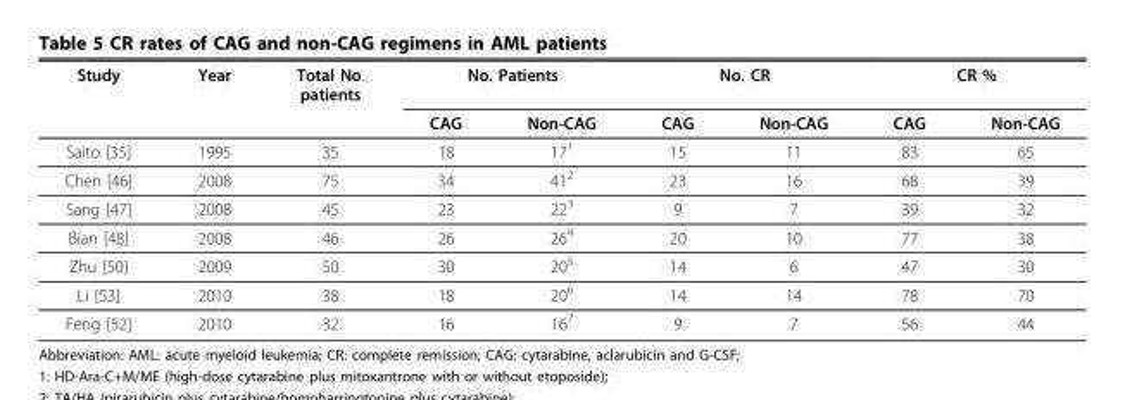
<table><tbody><tr><td rowspan="2">Study</td><td>Year</td><td>Total No. patients</td><td colspan="2">No. Patients</td><td colspan="2">No. CR</td><td colspan="2">CR %</td></tr><tr><td></td><td></td><td>CAG</td><td>Non-CAG</td><td>CAG</td><td>Non-CAG</td><td>CAG</td><td>Non-CAG</td></tr><tr><td>Saito [35]</td><td>1995</td><td>35</td><td>18</td><td>17<sup>1</sup></td><td>15</td><td>11</td><td>83</td><td>65</td></tr><tr><td>Chen [46]</td><td>2008</td><td>75</td><td>34</td><td>41<sup>2</sup></td><td>23</td><td>16</td><td>68</td><td>39</td></tr><tr><td>Sang [47]</td><td>2008</td><td>45</td><td>23</td><td>22<sup>3</sup></td><td>9</td><td>7</td><td>39</td><td>32</td></tr><tr><td>Bian [48]</td><td>2008</td><td>46</td><td>26</td><td>26<sup>4</sup></td><td>20</td><td>10</td><td>77</td><td>38</td></tr><tr><td>Zhu [50]</td><td>2009</td><td>50</td><td>30</td><td>20<sup>5</sup></td><td>14</td><td>6</td><td>47</td><td>30</td></tr><tr><td>Li [53]</td><td>2010</td><td>38</td><td>18</td><td>20<sup>6</sup></td><td>14</td><td>14</td><td>78</td><td>70</td></tr><tr><td>Feng [52]</td><td>2010</td><td>32</td><td>16</td><td>16<sup>7</sup></td><td>9</td><td>7</td><td>56</td><td>44</td></tr></tbody></table>